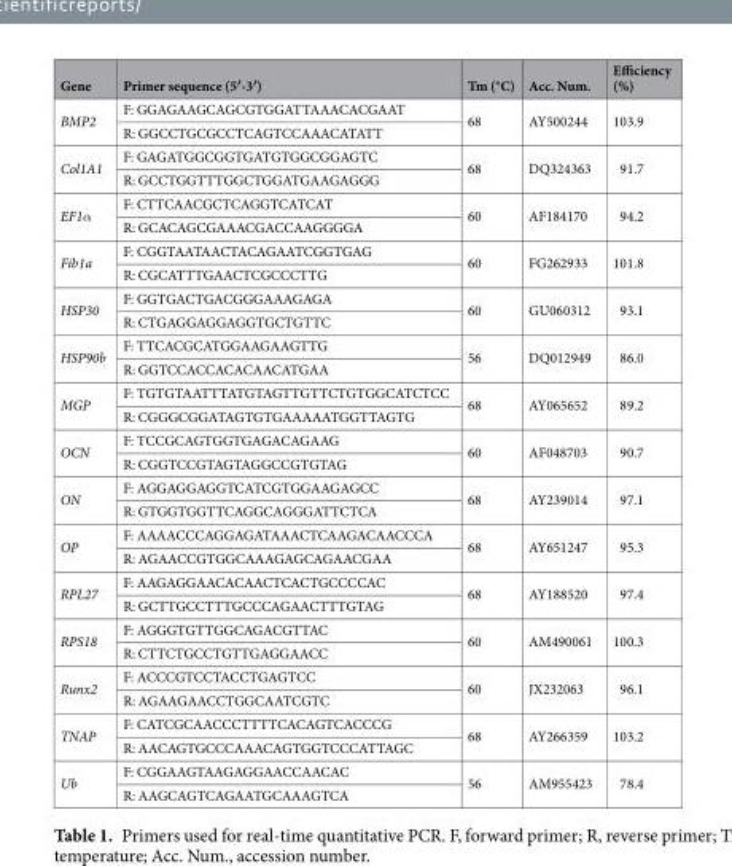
<table><thead><tr><td>Gene</td><td>Primer sequence (5′-3′)</td><td>Tm (°C)</td><td>Acc. Num.</td><td>Efficiency (%)</td></tr></thead><tbody><tr><td rowspan="2">BMP2</td><td>F: GGAGAAGCAGCGTGGATTAAACACGAAT</td><td rowspan="2">68</td><td rowspan="2">AY500244</td><td rowspan="2">103.9</td></tr><tr><td>R: GGCCTGCGCCTCAGTCCAAACATATT</td></tr><tr><td rowspan="2">Col1A1</td><td>F: GAGATGGCGGTGATGTGGCGGAGTC</td><td rowspan="2">68</td><td rowspan="2">DQ324363</td><td rowspan="2">91.7</td></tr><tr><td>R: GCCTGGTTTGGCTGGATGAAGAGGG</td></tr><tr><td rowspan="2">EF1α</td><td>F: CTTCAACGCTCAGGTCATCAT</td><td rowspan="2">60</td><td rowspan="2">AF184170</td><td rowspan="2">94.2</td></tr><tr><td>R: GCACAGCGAAACGACCAAGGGGA</td></tr><tr><td rowspan="2">Fib1a</td><td>F: CGGTAATAACTACAGAATCGGTGAG</td><td rowspan="2">60</td><td rowspan="2">FG262933</td><td rowspan="2">101.8</td></tr><tr><td>R: CGCATTTGAACTCGCCCTTG</td></tr><tr><td rowspan="2">HSP30</td><td>F: GGTGACTGACGGGAAAGAGA</td><td rowspan="2">60</td><td rowspan="2">GU060312</td><td rowspan="2">93.1</td></tr><tr><td>R: CTGAGGAGGAGGTGCTGTTC</td></tr><tr><td rowspan="2">HSP90b</td><td>F: TTCACGCATGGAAGAAGTTG</td><td rowspan="2">56</td><td rowspan="2">DQ012949</td><td rowspan="2">86.0</td></tr><tr><td>R: GGTCCACCACACAACATGAA</td></tr><tr><td rowspan="2">MGP</td><td>F: TGTGTAATTTATGTAGTTGTTCTGTGGCATCTCC</td><td rowspan="2">68</td><td rowspan="2">AY065652</td><td rowspan="2">89.2</td></tr><tr><td>R: CGGGCGGATAGTGTGAAAAATGGTTAGTG</td></tr><tr><td rowspan="2">OCN</td><td>F: TCCGCAGTGGTGAGACAGAAG</td><td rowspan="2">60</td><td rowspan="2">AF048703</td><td rowspan="2">90.7</td></tr><tr><td>R: CGGTCCGTAGTAGGCCGTGTAG</td></tr><tr><td rowspan="2">ON</td><td>F: AGGAGGAGGTCATCGTGGAAGAGCC</td><td rowspan="2">68</td><td rowspan="2">AY239014</td><td rowspan="2">97.1</td></tr><tr><td>R: GTGGTGGTTCAGGCAGGGATTCTCA</td></tr><tr><td rowspan="2">OP</td><td>F: AAAACCCAGGAGATAAACTCAAGACAACCCA</td><td rowspan="2">68</td><td rowspan="2">AY651247</td><td rowspan="2">95.3</td></tr><tr><td>R: AGAACCGTGGCAAAGAGCAGAACGAA</td></tr><tr><td rowspan="2">RPL27</td><td>F: AAGAGGAACACAACTCACTGCCCCAC</td><td rowspan="2">68</td><td rowspan="2">AY188520</td><td rowspan="2">97.4</td></tr><tr><td>R: GCTTGCCTTTGCCCAGAACTTTGTAG</td></tr><tr><td rowspan="2">RPS18</td><td>F: AGGGTGTTGGCAGACGTTAC</td><td rowspan="2">60</td><td rowspan="2">AM490061</td><td rowspan="2">100.3</td></tr><tr><td>R: CTTCTGCCTGTTGAGGAACC</td></tr><tr><td rowspan="2">Runx2</td><td>F: ACCCGTCCTACCTGAGTCC</td><td rowspan="2">60</td><td rowspan="2">JX232063</td><td rowspan="2">96.1</td></tr><tr><td>R: AGAAGAACCTGGCAATCGTC</td></tr><tr><td rowspan="2">TNAP</td><td>F: CATCGCAACCCTTTTCACAGTCACCCG</td><td rowspan="2">68</td><td rowspan="2">AY266359</td><td rowspan="2">103.2</td></tr><tr><td>R: AACAGTGCCCAAACAGTGGTCCCATTAGC</td></tr><tr><td rowspan="2">Ub</td><td>F: CGGAAGTAAGAGGAACCAACAC</td><td rowspan="2">56</td><td rowspan="2">AM955423</td><td rowspan="2">78.4</td></tr><tr><td>R: AAGCAGTCAGAATGCAAAGTCA</td></tr></tbody></table>